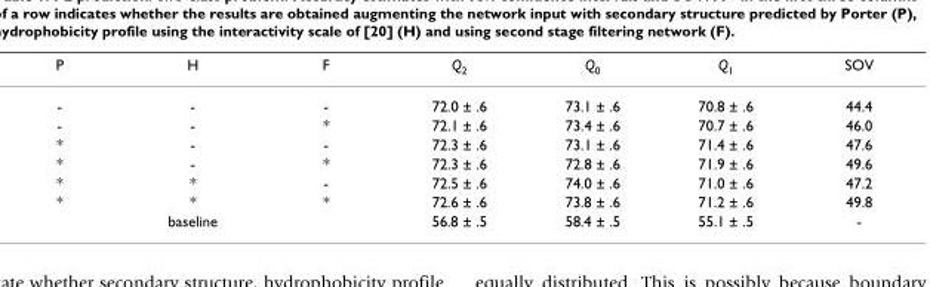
<table><thead><tr><td>P</td><td>H</td><td>F</td><td>Q2</td><td>Q0</td><td>Q1</td><td>SOV</td></tr></thead><tbody><tr><td>-</td><td>-</td><td>-</td><td>72.0 ± .6</td><td>73.1 ± .6</td><td>70.8 ± .6</td><td>44.4</td></tr><tr><td>-</td><td>-</td><td>*</td><td>72.1 ± .6</td><td>73.4 ± .6</td><td>70.7 ± .6</td><td>46.0</td></tr><tr><td>*</td><td>-</td><td>-</td><td>72.3 ± .6</td><td>73.1 ± .6</td><td>71.4 ± .6</td><td>47.6</td></tr><tr><td>*</td><td>-</td><td>*</td><td>72.3 ± .6</td><td>72.8 ± .6</td><td>71.9 ± .6</td><td>49.6</td></tr><tr><td>*</td><td>*</td><td>-</td><td>72.5 ± .6</td><td>74.0 ± .6</td><td>71.0 ± .6</td><td>47.2</td></tr><tr><td>*</td><td>*</td><td>*</td><td>72.6 ± .6</td><td>73.8 ± .6</td><td>71.2 ± .6</td><td>49.8</td></tr><tr><td colspan="3">baseline</td><td>56.8 ± .5</td><td>58.4 ± .5</td><td>55.1 ± .5</td><td>-</td></tr></tbody></table>